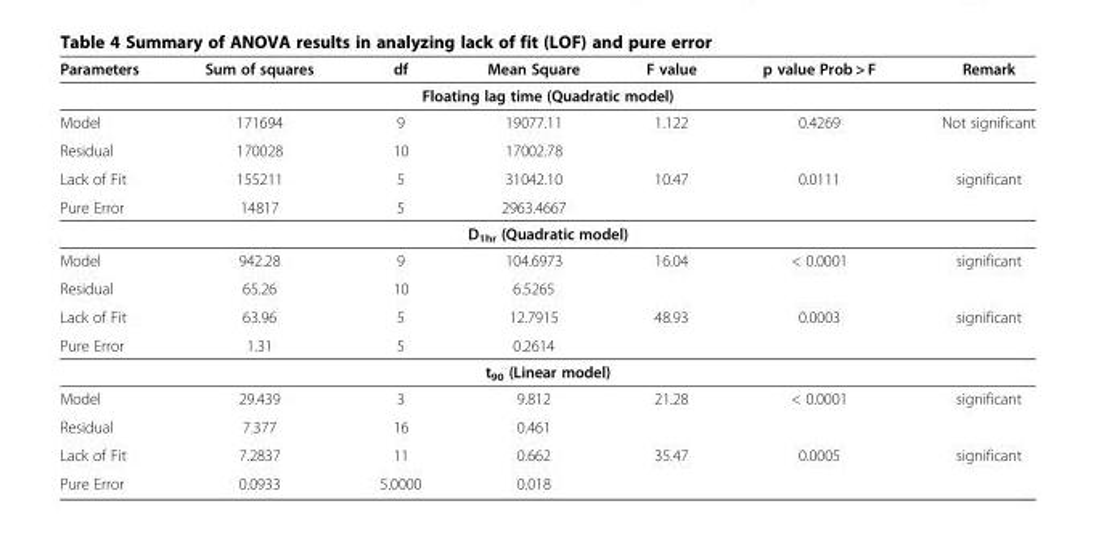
<table><thead><tr><td>Parameters</td><td>Sum of squares</td><td>df</td><td>Mean Square</td><td>F value</td><td>p value Prob &gt; F</td><td>Remark</td></tr></thead><tbody><tr><td colspan="7">Floating lag time (Quadratic model)</td></tr><tr><td>Model</td><td>171694</td><td>9</td><td>19077.11</td><td>1.122</td><td>0.4269</td><td>Not significant</td></tr><tr><td>Residual</td><td>170028</td><td>10</td><td>17002.78</td><td></td><td></td><td></td></tr><tr><td>Lack of Fit</td><td>155211</td><td>5</td><td>31042.10</td><td>10.47</td><td>0.0111</td><td>significant</td></tr><tr><td>Pure Error</td><td>14817</td><td>5</td><td>2963.4667</td><td></td><td></td><td></td></tr><tr><td colspan="7">D<sub>1hr</sub> (Quadratic model)</td></tr><tr><td>Model</td><td>942.28</td><td>9</td><td>104.6973</td><td>16.04</td><td>&lt; 0.0001</td><td>significant</td></tr><tr><td>Residual</td><td>65.26</td><td>10</td><td>6.5265</td><td></td><td></td><td></td></tr><tr><td>Lack of Fit</td><td>63.96</td><td>5</td><td>12.7915</td><td>48.93</td><td>0.0003</td><td>significant</td></tr><tr><td>Pure Error</td><td>1.31</td><td>5</td><td>0.2614</td><td></td><td></td><td></td></tr><tr><td colspan="7">t<sub>90</sub> (Linear model)</td></tr><tr><td>Model</td><td>29.439</td><td>3</td><td>9.812</td><td>21.28</td><td>&lt; 0.0001</td><td>significant</td></tr><tr><td>Residual</td><td>7.377</td><td>16</td><td>0.461</td><td></td><td></td><td></td></tr><tr><td>Lack of Fit</td><td>7.2837</td><td>11</td><td>0.662</td><td>35.47</td><td>0.0005</td><td>significant</td></tr><tr><td>Pure Error</td><td>0.0933</td><td>5.0000</td><td>0.018</td><td></td><td></td><td></td></tr></tbody></table>